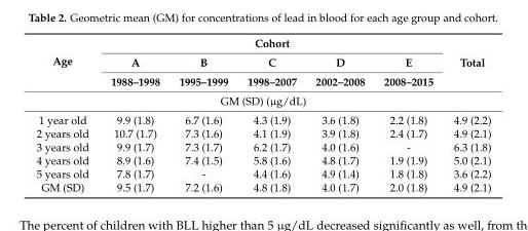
<table><thead><tr><td rowspan="3">Age</td><td colspan="5">Cohort</td><td rowspan="3">Total</td></tr><tr><td rowspan="2">A 1988–1998</td><td rowspan="2">B 1995–1999</td><td rowspan="2">C 1998–2007</td><td rowspan="2">D 2002–2008</td><td rowspan="2">E 2008–2015</td></tr><tr></tr></thead><tbody><tr><td colspan="7">GM (SD) (µg/dL)</td></tr><tr><td>1 year old</td><td>9.9 (1.8)</td><td>6.7 (1.6)</td><td>4.3 (1.9)</td><td>3.6 (1.8)</td><td>2.2 (1.8)</td><td>4.9 (2.2)</td></tr><tr><td>2 years old</td><td>10.7 (1.7)</td><td>7.3 (1.6)</td><td>4.1 (1.9)</td><td>3.9 (1.8)</td><td>2.4 (1.7)</td><td>4.9 (2.1)</td></tr><tr><td>3 years old</td><td>9.9 (1.7)</td><td>7.3 (1.7)</td><td>6.2 (1.7)</td><td>4.0 (1.6)</td><td>-</td><td>6.3 (1.8)</td></tr><tr><td>4 years old</td><td>8.9 (1.6)</td><td>7.4 (1.5)</td><td>5.8 (1.6)</td><td>4.8 (1.7)</td><td>1.9 (1.9)</td><td>5.0 (2.1)</td></tr><tr><td>5 years old</td><td>7.8 (1.7)</td><td>-</td><td>4.4 (1.6)</td><td>4.9 (1.4)</td><td>1.8 (1.8)</td><td>3.6 (2.2)</td></tr><tr><td>GM (SD)</td><td>9.5 (1.7)</td><td>7.2 (1.6)</td><td>4.8 (1.8)</td><td>4.0 (1.7)</td><td>2.0 (1.8)</td><td>4.9 (2.1)</td></tr></tbody></table>